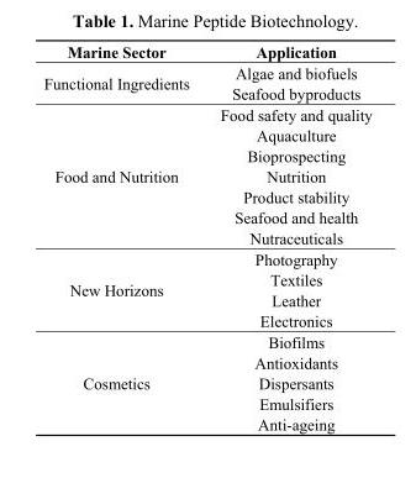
<table><thead><tr><td>Marine Sector</td><td>Application</td></tr></thead><tbody><tr><td rowspan="2">Functional Ingredients</td><td>Algae and biofuels</td></tr><tr><td>Seafood byproducts</td></tr><tr><td rowspan="7">Food and Nutrition</td><td>Food safety and quality</td></tr><tr><td>Aquaculture</td></tr><tr><td>Bioprospecting</td></tr><tr><td>Nutrition</td></tr><tr><td>Product stability</td></tr><tr><td>Seafood and health</td></tr><tr><td>Nutraceuticals</td></tr><tr><td rowspan="4">New Horizons</td><td>Photography</td></tr><tr><td>Textiles</td></tr><tr><td>Leather</td></tr><tr><td>Electronics</td></tr><tr><td rowspan="5">Cosmetics</td><td>Biofilms</td></tr><tr><td>Antioxidants</td></tr><tr><td>Dispersants</td></tr><tr><td>Emulsifiers</td></tr><tr><td>Anti-ageing</td></tr></tbody></table>